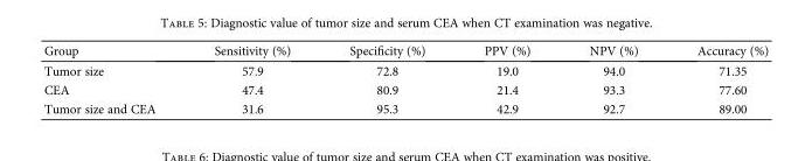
<table><thead><tr><td>Group</td><td>Sensitivity (%)</td><td>Specificity (%)</td><td>PPV (%)</td><td>NPV (%)</td><td>Accuracy (%)</td></tr></thead><tbody><tr><td>Tumor size</td><td>57.9</td><td>72.8</td><td>19.0</td><td>94.0</td><td>71.35</td></tr><tr><td>CEA</td><td>47.4</td><td>80.9</td><td>21.4</td><td>93.3</td><td>77.60</td></tr><tr><td>Tumor size and CEA</td><td>31.6</td><td>95.3</td><td>42.9</td><td>92.7</td><td>89.00</td></tr></tbody></table>